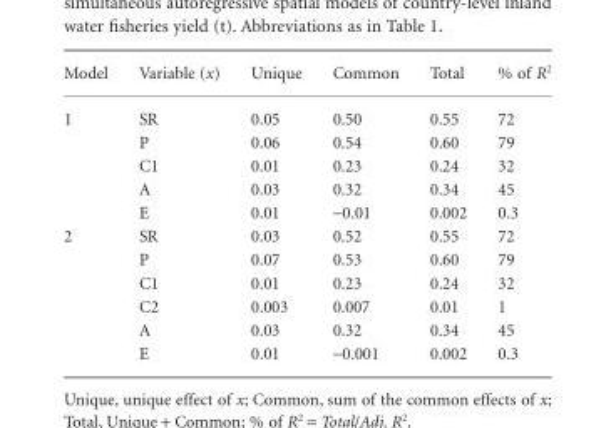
<table><thead><tr><td>Model</td><td>Variable (x)</td><td>Unique</td><td>Common</td><td>Total</td><td>% of R<sup>2</sup></td></tr></thead><tbody><tr><td rowspan="5">1</td><td>SR</td><td>0.05</td><td>0.50</td><td>0.55</td><td>72</td></tr><tr><td>P</td><td>0.06</td><td>0.54</td><td>0.60</td><td>79</td></tr><tr><td>C1</td><td>0.01</td><td>0.23</td><td>0.24</td><td>32</td></tr><tr><td>A</td><td>0.03</td><td>0.32</td><td>0.34</td><td>45</td></tr><tr><td>E</td><td>0.01</td><td>−0.01</td><td>0.002</td><td>0.3</td></tr><tr><td rowspan="6">2</td><td>SR</td><td>0.03</td><td>0.52</td><td>0.55</td><td>72</td></tr><tr><td>P</td><td>0.07</td><td>0.53</td><td>0.60</td><td>79</td></tr><tr><td>C1</td><td>0.01</td><td>0.23</td><td>0.24</td><td>32</td></tr><tr><td>C2</td><td>0.003</td><td>0.007</td><td>0.01</td><td>1</td></tr><tr><td>A</td><td>0.03</td><td>0.32</td><td>0.34</td><td>45</td></tr><tr><td>E</td><td>0.01</td><td>−0.001</td><td>0.002</td><td>0.3</td></tr></tbody></table>